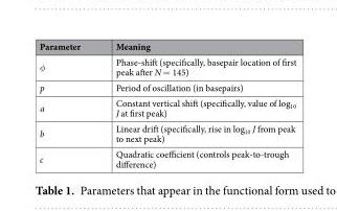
<table><thead><tr><td>Parameter</td><td>Meaning</td></tr></thead><tbody><tr><td>φ</td><td>Phase-shift (specifically, basepair location of first peak after N = 145)</td></tr><tr><td>p</td><td>Period of oscillation (in basepairs)</td></tr><tr><td>a</td><td>Constant vertical shift (specifically, value of log<sub>10</sub> J at first peak)</td></tr><tr><td>b</td><td>Linear drift (specifically, rise in log<sub>10</sub> J from peak to next peak)</td></tr><tr><td>c</td><td>Quadratic coefficient (controls peak-to-trough difference)</td></tr></tbody></table>